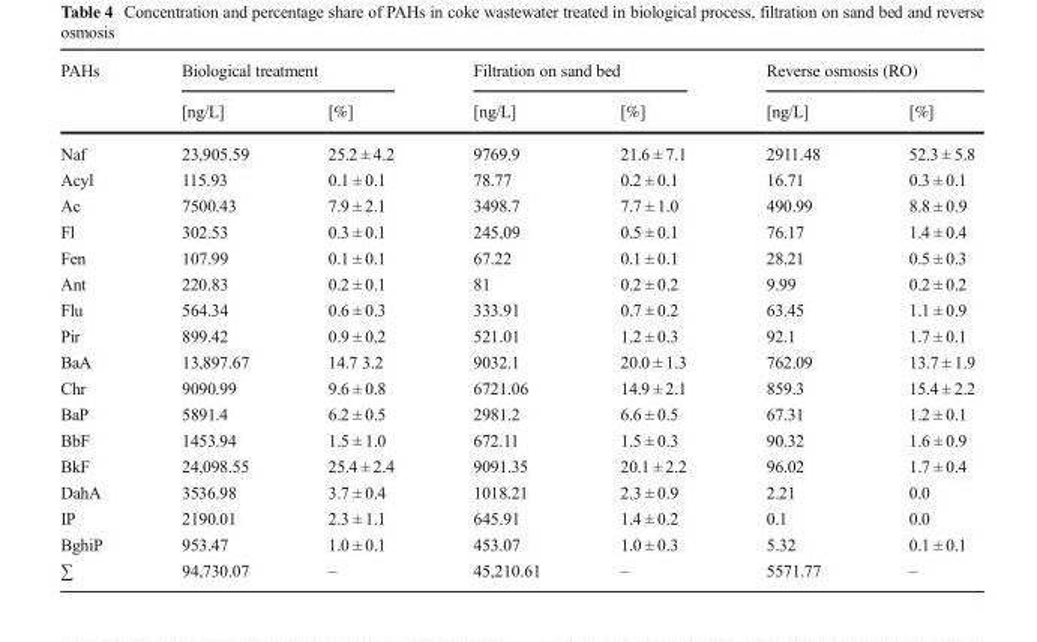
<table><thead><tr><td rowspan="2">PAHs</td><td colspan="2">Biological treatment</td><td colspan="2">Filtration on sand bed</td><td colspan="2">Reverse osmosis (RO)</td></tr><tr><td>[ng/L]</td><td>[%]</td><td>[ng/L]</td><td>[%]</td><td>[ng/L]</td><td>[%]</td></tr></thead><tbody><tr><td>Naf</td><td>23,905.59</td><td>25.2 ± 4.2</td><td>9769.9</td><td>21.6 ± 7.1</td><td>2911.48</td><td>52.3 ± 5.8</td></tr><tr><td>Acyl</td><td>115.93</td><td>0.1 ± 0.1</td><td>78.77</td><td>0.2 ± 0.1</td><td>16.71</td><td>0.3 ± 0.1</td></tr><tr><td>Ac</td><td>7500.43</td><td>7.9 ± 2.1</td><td>3498.7</td><td>7.7 ± 1.0</td><td>490.99</td><td>8.8 ± 0.9</td></tr><tr><td>Fl</td><td>302.53</td><td>0.3 ± 0.1</td><td>245,09</td><td>0.5 ± 0.1</td><td>76.17</td><td>1.4 ± 0.4</td></tr><tr><td>Fen</td><td>107.99</td><td>0.1 ± 0.1</td><td>67.22</td><td>0.1 ± 0.1</td><td>28.21</td><td>0.5 ± 0.3</td></tr><tr><td>Ant</td><td>220.83</td><td>0.2 ± 0.1</td><td>81</td><td>0.2 ± 0.2</td><td>9.99</td><td>0.2 ± 0.2</td></tr><tr><td>Flu</td><td>564.34</td><td>0.6 ± 0.3</td><td>333.91</td><td>0.7 ± 0.2</td><td>63.45</td><td>1.1 ± 0.9</td></tr><tr><td>Pir</td><td>899.42</td><td>0.9 ± 0.2</td><td>521.01</td><td>1.2 ± 0.3</td><td>92.1</td><td>1.7 ± 0.1</td></tr><tr><td>BaA</td><td>13,897.67</td><td>14.7 3.2</td><td>9032.1</td><td>20.0 ± 1.3</td><td>762.09</td><td>13.7 ± 1.9</td></tr><tr><td>Chr</td><td>9090.99</td><td>9.6 ± 0.8</td><td>6721.06</td><td>14.9 ± 2.1</td><td>859.3</td><td>15.4 ± 2.2</td></tr><tr><td>BaP</td><td>5891.4</td><td>6.2 ± 0.5</td><td>2981.2</td><td>6.6 ± 0.5</td><td>67.31</td><td>1.2 ± 0.1</td></tr><tr><td>BbF</td><td>1453.94</td><td>1.5 ± 1.0</td><td>672.11</td><td>1.5 ± 0.3</td><td>90.32</td><td>1.6 ± 0.9</td></tr><tr><td>BkF</td><td>24,098.55</td><td>25.4 ± 2.4</td><td>9091.35</td><td>20.1 ± 2.2</td><td>96.02</td><td>1.7 ± 0.4</td></tr><tr><td>DahA</td><td>3536.98</td><td>3.7 ± 0.4</td><td>1018.21</td><td>2.3 ± 0.9</td><td>2.21</td><td>0.0</td></tr><tr><td>IP</td><td>2190.01</td><td>2.3 ± 1.1</td><td>645.91</td><td>1.4 ± 0.2</td><td>0.1</td><td>0.0</td></tr><tr><td>BghiP</td><td>953.47</td><td>1.0 ± 0.1</td><td>453.07</td><td>1.0 ± 0.3</td><td>5.32</td><td>0.1 ± 0.1</td></tr><tr><td>∑</td><td>94,730.07</td><td>–</td><td>45,210.61</td><td>–</td><td>5571.77</td><td>–</td></tr></tbody></table>